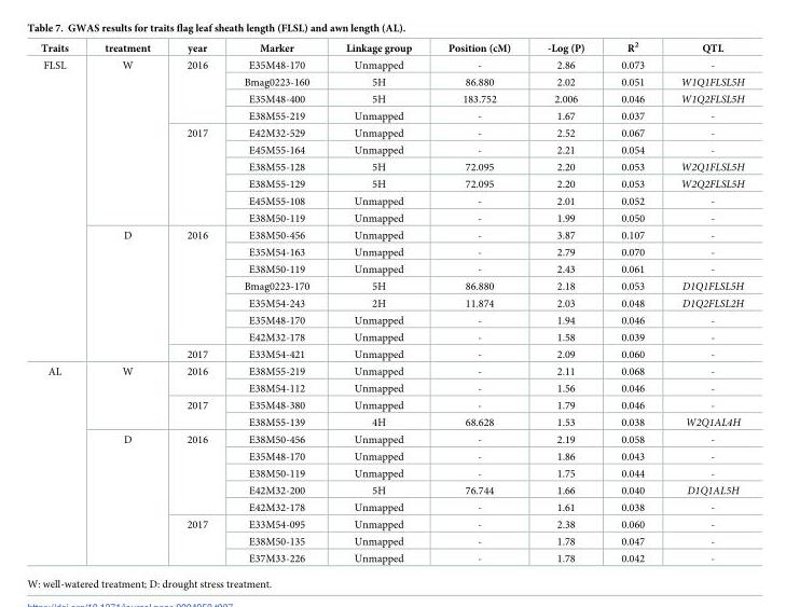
<table><thead><tr><td>Traits</td><td>treatment</td><td>year</td><td>Marker</td><td>Linkage group</td><td>Position (cM)</td><td>-Log (P)</td><td>R<sup>2</sup></td><td>QTL</td></tr></thead><tbody><tr><td rowspan="18">FLSL</td><td rowspan="10">W</td><td rowspan="4">2016</td><td>E35M48-170</td><td>Unmapped</td><td>-</td><td>2.86</td><td>0.073</td><td>-</td></tr><tr><td>Bmag0223-160</td><td>5H</td><td>86.880</td><td>2.02</td><td>0.051</td><td>W1Q1FLSL5H</td></tr><tr><td>E35M48-400</td><td>5H</td><td>183.752</td><td>2.006</td><td>0.046</td><td>W1Q2FLSL5H</td></tr><tr><td>E38M55-219</td><td>Unmapped</td><td>-</td><td>1.67</td><td>0.037</td><td>-</td></tr><tr><td rowspan="6">2017</td><td>E42M32-529</td><td>Unmapped</td><td>-</td><td>2.52</td><td>0.067</td><td>-</td></tr><tr><td>E45M55-164</td><td>Unmapped</td><td>-</td><td>2.21</td><td>0.054</td><td>-</td></tr><tr><td>E38M55-128</td><td>5H</td><td>72.095</td><td>2.20</td><td>0.053</td><td>W2Q1FLSL5H</td></tr><tr><td>E38M55-129</td><td>5H</td><td>72.095</td><td>2.20</td><td>0.053</td><td>W2Q2FLSL5H</td></tr><tr><td>E45M55-108</td><td>Unmapped</td><td>-</td><td>2.01</td><td>0.052</td><td>-</td></tr><tr><td>E38M50-119</td><td>Unmapped</td><td>-</td><td>1.99</td><td>0.050</td><td>-</td></tr><tr><td rowspan="8">D</td><td rowspan="7">2016</td><td>E38M50-456</td><td>Unmapped</td><td>-</td><td>3.87</td><td>0.107</td><td>-</td></tr><tr><td>E35M54-163</td><td>Unmapped</td><td>-</td><td>2.79</td><td>0.070</td><td>-</td></tr><tr><td>E38M50-119</td><td>Unmapped</td><td>-</td><td>2.43</td><td>0.061</td><td>-</td></tr><tr><td>Bmag0223-170</td><td>5H</td><td>86.880</td><td>2.18</td><td>0.053</td><td>D1Q1FLSL5H</td></tr><tr><td>E35M54-243</td><td>2H</td><td>11.874</td><td>2.03</td><td>0.048</td><td>D1Q2FLSL2H</td></tr><tr><td>E35M48-170</td><td>Unmapped</td><td>-</td><td>1.94</td><td>0.046</td><td>-</td></tr><tr><td>E42M32-178</td><td>Unmapped</td><td>-</td><td>1.58</td><td>0.039</td><td>-</td></tr><tr><td>2017</td><td>E33M54-421</td><td>Unmapped</td><td>-</td><td>2.09</td><td>0.060</td><td>-</td></tr><tr><td rowspan="12">AL</td><td rowspan="4">W</td><td rowspan="2">2016</td><td>E38M55-219</td><td>Unmapped</td><td>-</td><td>2.11</td><td>0.068</td><td>-</td></tr><tr><td>E38M54-112</td><td>Unmapped</td><td>-</td><td>1.56</td><td>0.046</td><td>-</td></tr><tr><td rowspan="2">2017</td><td>E35M48-380</td><td>Unmapped</td><td>-</td><td>1.79</td><td>0.046</td><td>-</td></tr><tr><td>E38M55-139</td><td>4H</td><td>68.628</td><td>1.53</td><td>0.038</td><td>W2Q1AL4H</td></tr><tr><td rowspan="8">D</td><td rowspan="5">2016</td><td>E38M50-456</td><td>Unmapped</td><td>-</td><td>2.19</td><td>0.058</td><td>-</td></tr><tr><td>E35M48-170</td><td>Unmapped</td><td>-</td><td>1.86</td><td>0.043</td><td>-</td></tr><tr><td>E38M50-119</td><td>Unmapped</td><td>-</td><td>1.75</td><td>0.044</td><td>-</td></tr><tr><td>E42M32-200</td><td>5H</td><td>76.744</td><td>1.66</td><td>0.040</td><td>D1Q1AL5H</td></tr><tr><td>E42M32-178</td><td>Unmapped</td><td>-</td><td>1.61</td><td>0.038</td><td>-</td></tr><tr><td rowspan="3">2017</td><td>E33M54-095</td><td>Unmapped</td><td>-</td><td>2.38</td><td>0.060</td><td>-</td></tr><tr><td>E38M50-135</td><td>Unmapped</td><td>-</td><td>1.78</td><td>0.047</td><td>-</td></tr><tr><td>E37M33-226</td><td>Unmapped</td><td>-</td><td>1.78</td><td>0.042</td><td>-</td></tr></tbody></table>